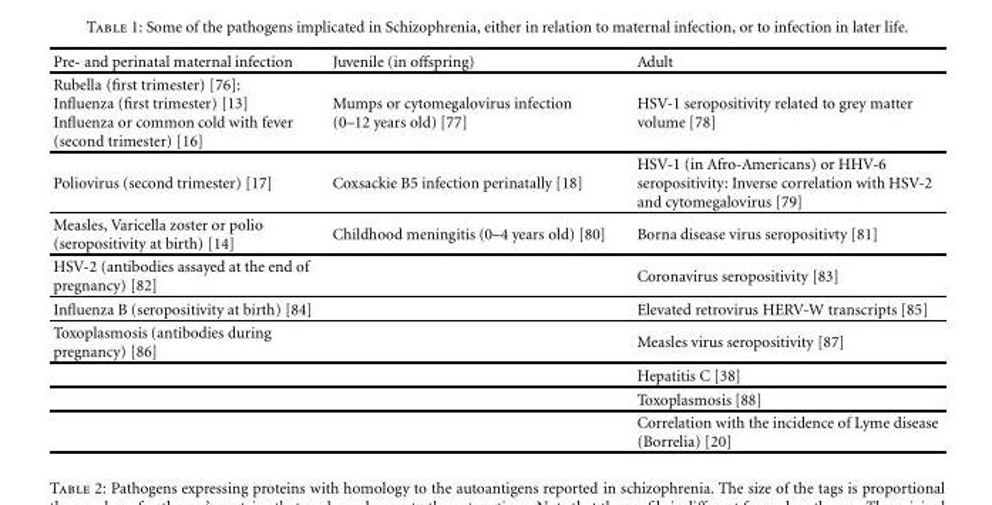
<table><thead><tr><td>Pre- and perinatal maternal infection</td><td>Juvenile (in offspring)</td><td>Adult</td></tr></thead><tbody><tr><td>Rubella (first trimester) [76]: Influenza (first trimester) [13] Influenza or common cold with fever (second trimester) [16]</td><td>Mumps or cytomegalovirus infection (0–12 years old) [77]</td><td>HSV-1 seropositivity related to grey matter volume [78]</td></tr><tr><td>Poliovirus (second trimester) [17]</td><td>Coxsackie B5 infection perinatally [18]</td><td>HSV-1 (in Afro-Americans) or HHV-6 seropositivity: Inverse correlation with HSV-2 and cytomegalovirus [79]</td></tr><tr><td>Measles, Varicella zoster or polio (seropositivity at birth) [14]</td><td>Childhood meningitis (0–4 years old) [80]</td><td>Borna disease virus seropositivty [81]</td></tr><tr><td>HSV-2 (antibodies assayed at the end of pregnancy) [82]</td><td></td><td>Coronavirus seropositivity [83]</td></tr><tr><td>Influenza B (seropositivity at birth) [84]</td><td></td><td>Elevated retrovirus HERV-W transcripts [85]</td></tr><tr><td rowspan="4">Toxoplasmosis (antibodies during pregnancy) [86]</td><td></td><td>Measles virus seropositivity [87]</td></tr><tr><td></td><td>Hepatitis C [38]</td></tr><tr><td></td><td>Toxoplasmosis [88]</td></tr><tr><td></td><td>Correlation with the incidence of Lyme disease (Borrelia) [20]</td></tr></tbody></table>